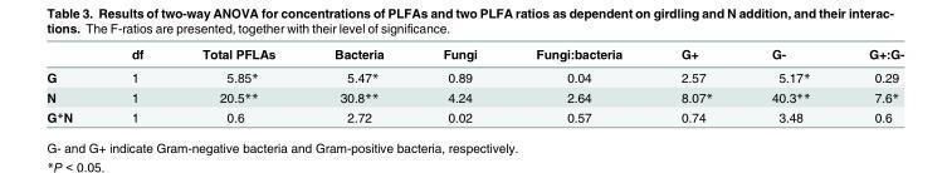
<table><thead><tr><td></td><td>df</td><td>Total PFLAs</td><td>Bacteria</td><td>Fungi</td><td>Fungi:bacteria</td><td>G+</td><td>G-</td><td>G+:G-</td></tr></thead><tbody><tr><td>G</td><td>1</td><td>5.85*</td><td>5.47*</td><td>0.89</td><td>0.04</td><td>2.57</td><td>5.17*</td><td>0.29</td></tr><tr><td>N</td><td>1</td><td>20.5**</td><td>30.8**</td><td>4.24</td><td>2.64</td><td>8.07*</td><td>40.3**</td><td>7.6*</td></tr><tr><td>G*N</td><td>1</td><td>0.6</td><td>2.72</td><td>0.02</td><td>0.57</td><td>0.74</td><td>3.48</td><td>0.6</td></tr></tbody></table>